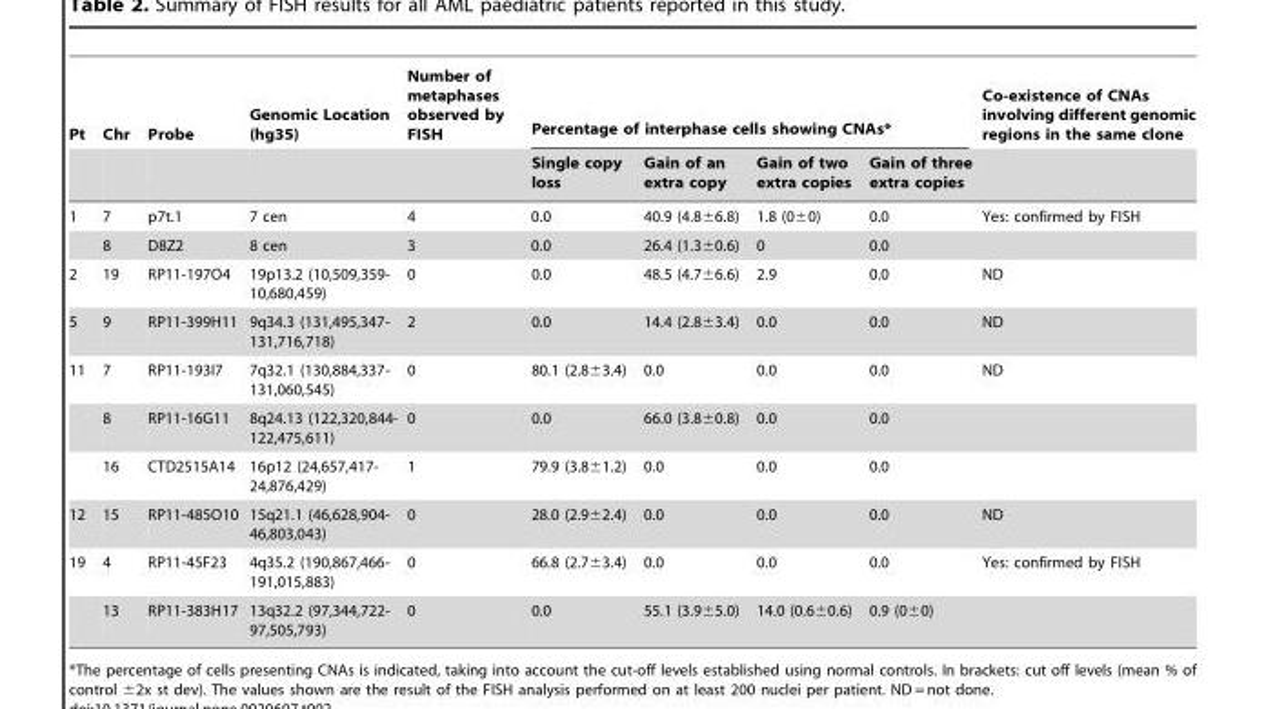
<table><thead><tr><td rowspan="2">Pt</td><td rowspan="2">Chr</td><td rowspan="2">Probe</td><td rowspan="2">Genomic Location (hg35)</td><td rowspan="2">Number of metaphases observed by FISH</td><td colspan="4">Percentage of interphase cells showing CNAs*</td><td rowspan="2">Co-existence of CNAs involving different genomic regions in the same clone</td></tr><tr><td>Single copy loss</td><td>Gain of an extra copy</td><td>Gain of two extra copies</td><td>Gain of three extra copies</td></tr></thead><tbody><tr><td rowspan="2">1</td><td>7</td><td>p7t.1</td><td>7 cen</td><td>4</td><td>0.0</td><td>40.9 (4.8±6.8)</td><td>1.8 (0±0)</td><td>0.0</td><td>Yes: confirmed by FISH</td></tr><tr><td>8</td><td>D8Z2</td><td>8 cen</td><td>3</td><td>0.0</td><td>26.4 (1.3±0.6)</td><td>0</td><td>0.0</td><td></td></tr><tr><td>2</td><td>19</td><td>RP11-197O4</td><td>19p13.2 (10,509,359- 10,680,459)</td><td>0</td><td>0.0</td><td>48.5 (4.7±6.6)</td><td>2.9</td><td>0.0</td><td>ND</td></tr><tr><td>5</td><td>9</td><td>RP11-399H11</td><td>9q34.3 (131,495,347- 131,716,718)</td><td>2</td><td>0.0</td><td>14.4 (2.8±3.4)</td><td>0.0</td><td>0.0</td><td>ND</td></tr><tr><td rowspan="3">11</td><td>7</td><td>RP11-193I7</td><td>7q32.1 (130,884,337- 131,060,545)</td><td>0</td><td>80.1 (2.8±3.4)</td><td>0.0</td><td>0.0</td><td>0.0</td><td>ND</td></tr><tr><td>8</td><td>RP11-16G11</td><td>8q24.13 (122,320,844- 122,475,611)</td><td>0</td><td>0.0</td><td>66.0 (3.8±0.8)</td><td>0.0</td><td>0.0</td><td></td></tr><tr><td>16</td><td>CTD2515A14</td><td>16p12 (24,657,417- 24,876,429)</td><td>1</td><td>79.9 (3.8±1.2)</td><td>0.0</td><td>0.0</td><td>0.0</td><td></td></tr><tr><td>12</td><td>15</td><td>RP11-485O10</td><td>15q21.1 (46,628,904- 46,803,043)</td><td>0</td><td>28.0 (2.9±2.4)</td><td>0.0</td><td>0.0</td><td>0.0</td><td>ND</td></tr><tr><td rowspan="2">19</td><td>4</td><td>RP11-45F23</td><td>4q35.2 (190,867,466- 191,015,883)</td><td>0</td><td>66.8 (2.7±3.4)</td><td>0.0</td><td>0.0</td><td>0.0</td><td>Yes: confirmed by FISH</td></tr><tr><td>13</td><td>RP11-383H17</td><td>13q32.2 (97,344,722- 97,505,793)</td><td>0</td><td>0.0</td><td>55.1 (3.9±5.0)</td><td>14.0 (0.6±0.6)</td><td>0.9 (0±0)</td><td></td></tr></tbody></table>